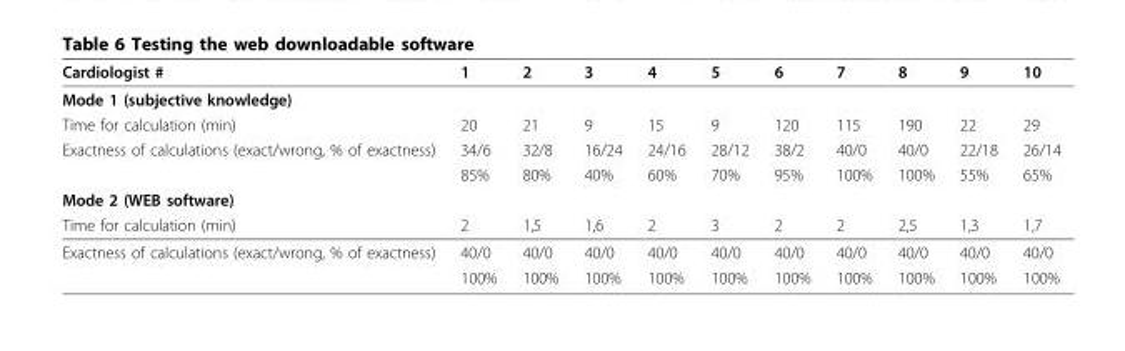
<table><thead><tr><td>Cardiologist #</td><td>1</td><td>2</td><td>3</td><td>4</td><td>5</td><td>6</td><td>7</td><td>8</td><td>9</td><td>10</td></tr></thead><tbody><tr><td colspan="11">Mode 1 (subjective knowledge)</td></tr><tr><td>Time for calculation (min)</td><td>20</td><td>21</td><td>9</td><td>15</td><td>9</td><td>120</td><td>115</td><td>190</td><td>22</td><td>29</td></tr><tr><td rowspan="2">Exactness of calculations (exact/wrong, % of exactness)</td><td>34/6</td><td>32/8</td><td>16/24</td><td>24/16</td><td>28/12</td><td>38/2</td><td>40/0</td><td>40/0</td><td>22/18</td><td>26/14</td></tr><tr><td>85%</td><td>80%</td><td>40%</td><td>60%</td><td>70%</td><td>95%</td><td>100%</td><td>100%</td><td>55%</td><td>65%</td></tr><tr><td colspan="11">Mode 2 (WEB software)</td></tr><tr><td>Time for calculation (min)</td><td>2</td><td>1,5</td><td>1,6</td><td>2</td><td>3</td><td>2</td><td>2</td><td>2,5</td><td>1,3</td><td>1,7</td></tr><tr><td rowspan="2">Exactness of calculations (exact/wrong, % of exactness)</td><td>40/0</td><td>40/0</td><td>40/0</td><td>40/0</td><td>40/0</td><td>40/0</td><td>40/0</td><td>40/0</td><td>40/0</td><td>40/0</td></tr><tr><td>100%</td><td>100%</td><td>100%</td><td>100%</td><td>100%</td><td>100%</td><td>100%</td><td>100%</td><td>100%</td><td>100%</td></tr></tbody></table>